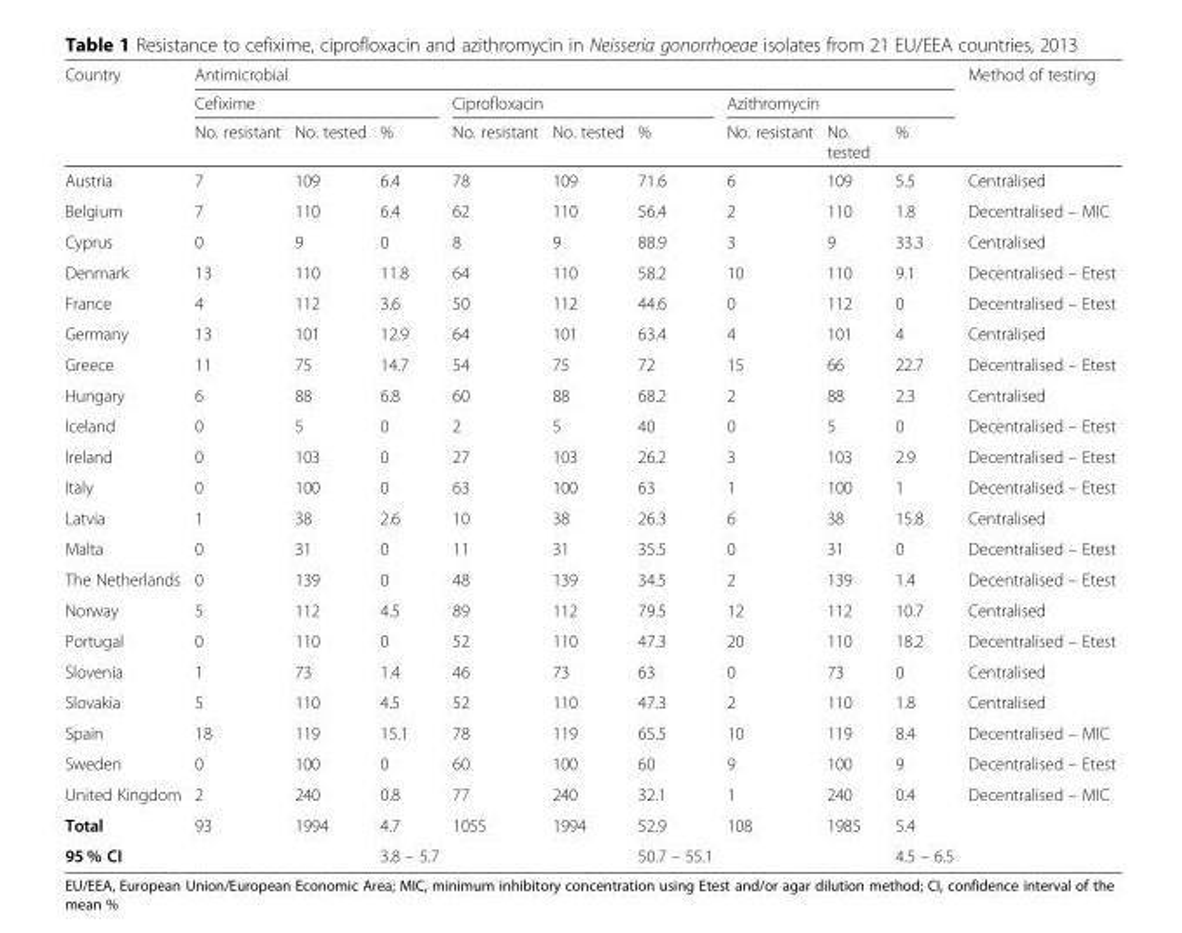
<table><thead><tr><td rowspan="3">Country</td><td colspan="9">Antimicrobial</td><td rowspan="3">Method of testing</td></tr><tr><td colspan="3">Cefixime</td><td colspan="3">Ciprofloxacin</td><td colspan="3">Azithromycin</td></tr><tr><td>No. resistant</td><td>No. tested</td><td>%</td><td>No. resistant</td><td>No. tested</td><td>%</td><td>No. resistant</td><td>No. tested</td><td>%</td></tr></thead><tbody><tr><td>Austria</td><td>7</td><td>109</td><td>6.4</td><td>78</td><td>109</td><td>71.6</td><td>6</td><td>109</td><td>5.5</td><td>Centralised</td></tr><tr><td>Belgium</td><td>7</td><td>110</td><td>6.4</td><td>62</td><td>110</td><td>56.4</td><td>2</td><td>110</td><td>1.8</td><td>Decentralised – MIC</td></tr><tr><td>Cyprus</td><td>0</td><td>9</td><td>0</td><td>8</td><td>9</td><td>88.9</td><td>3</td><td>9</td><td>33.3</td><td>Centralised</td></tr><tr><td>Denmark</td><td>13</td><td>110</td><td>11.8</td><td>64</td><td>110</td><td>58.2</td><td>10</td><td>110</td><td>9.1</td><td>Decentralised – Etest</td></tr><tr><td>France</td><td>4</td><td>112</td><td>3.6</td><td>50</td><td>112</td><td>44.6</td><td>0</td><td>112</td><td>0</td><td>Decentralised – Etest</td></tr><tr><td>Germany</td><td>13</td><td>101</td><td>12.9</td><td>64</td><td>101</td><td>63.4</td><td>4</td><td>101</td><td>4</td><td>Centralised</td></tr><tr><td>Greece</td><td>11</td><td>75</td><td>14.7</td><td>54</td><td>75</td><td>72</td><td>15</td><td>66</td><td>22.7</td><td>Decentralised – Etest</td></tr><tr><td>Hungary</td><td>6</td><td>88</td><td>6.8</td><td>60</td><td>88</td><td>68.2</td><td>2</td><td>88</td><td>2.3</td><td>Centralised</td></tr><tr><td>Iceland</td><td>0</td><td>5</td><td>0</td><td>2</td><td>5</td><td>40</td><td>0</td><td>5</td><td>0</td><td>Decentralised – Etest</td></tr><tr><td>Ireland</td><td>0</td><td>103</td><td>0</td><td>27</td><td>103</td><td>26.2</td><td>3</td><td>103</td><td>2.9</td><td>Decentralised – Etest</td></tr><tr><td>Italy</td><td>0</td><td>100</td><td>0</td><td>63</td><td>100</td><td>63</td><td>1</td><td>100</td><td>1</td><td>Decentralised – Etest</td></tr><tr><td>Latvia</td><td>1</td><td>38</td><td>2.6</td><td>10</td><td>38</td><td>26.3</td><td>6</td><td>38</td><td>15.8</td><td>Centralised</td></tr><tr><td>Malta</td><td>0</td><td>31</td><td>0</td><td>11</td><td>31</td><td>35.5</td><td>0</td><td>31</td><td>0</td><td>Decentralised – Etest</td></tr><tr><td>The Netherlands</td><td>0</td><td>139</td><td>0</td><td>48</td><td>139</td><td>34.5</td><td>2</td><td>139</td><td>1.4</td><td>Decentralised – Etest</td></tr><tr><td>Norway</td><td>5</td><td>112</td><td>4.5</td><td>89</td><td>112</td><td>79.5</td><td>12</td><td>112</td><td>10.7</td><td>Centralised</td></tr><tr><td>Portugal</td><td>0</td><td>110</td><td>0</td><td>52</td><td>110</td><td>47.3</td><td>20</td><td>110</td><td>18.2</td><td>Decentralised – Etest</td></tr><tr><td>Slovenia</td><td>1</td><td>73</td><td>1.4</td><td>46</td><td>73</td><td>63</td><td>0</td><td>73</td><td>0</td><td>Centralised</td></tr><tr><td>Slovakia</td><td>5</td><td>110</td><td>4.5</td><td>52</td><td>110</td><td>47.3</td><td>2</td><td>110</td><td>1.8</td><td>Centralised</td></tr><tr><td>Spain</td><td>18</td><td>119</td><td>15.1</td><td>78</td><td>119</td><td>65.5</td><td>10</td><td>119</td><td>8.4</td><td>Decentralised – MIC</td></tr><tr><td>Sweden</td><td>0</td><td>100</td><td>0</td><td>60</td><td>100</td><td>60</td><td>9</td><td>100</td><td>9</td><td>Decentralised – Etest</td></tr><tr><td>United Kingdom</td><td>2</td><td>240</td><td>0.8</td><td>77</td><td>240</td><td>32.1</td><td>1</td><td>240</td><td>0.4</td><td>Decentralised – MIC</td></tr><tr><td>Total</td><td>93</td><td>1994</td><td>4.7</td><td>1055</td><td>1994</td><td>52.9</td><td>108</td><td>1985</td><td>5.4</td><td></td></tr><tr><td>95 % CI</td><td></td><td></td><td>3.8 – 5.7</td><td></td><td></td><td>50.7 – 55.1</td><td></td><td></td><td>4.5 – 6.5</td><td></td></tr></tbody></table>